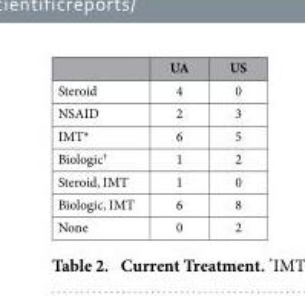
<table><thead><tr><td></td><td>UA</td><td>US</td></tr></thead><tbody><tr><td>Steroid</td><td>4</td><td>0</td></tr><tr><td>NSAID</td><td>2</td><td>3</td></tr><tr><td>IMT*</td><td>6</td><td>5</td></tr><tr><td>Biologic<sup>†</sup></td><td>1</td><td>2</td></tr><tr><td>Steroid, IMT</td><td>1</td><td>0</td></tr><tr><td>Biologic, IMT</td><td>6</td><td>8</td></tr><tr><td>None</td><td>0</td><td>2</td></tr></tbody></table>